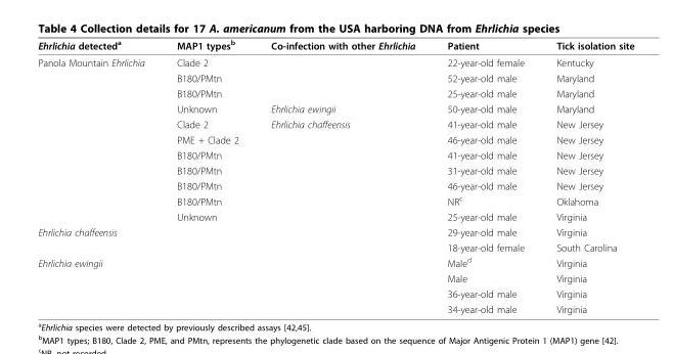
<table><thead><tr><td>Ehrlichia detected<sup>a</sup></td><td>MAP1 types<sup>b</sup></td><td>Co-infection with other Ehrlichia</td><td>Patient</td><td>Tick isolation site</td></tr></thead><tbody><tr><td rowspan="11">Panola Mountain Ehrlichia</td><td>Clade 2</td><td></td><td>22-year-old female</td><td>Kentucky</td></tr><tr><td>B180/PMtn</td><td></td><td>52-year-old male</td><td>Maryland</td></tr><tr><td>B180/PMtn</td><td></td><td>25-year-old male</td><td>Maryland</td></tr><tr><td>Unknown</td><td>Ehrlichia ewingii</td><td>50-year-old male</td><td>Maryland</td></tr><tr><td>Clade 2</td><td>Ehrlichia chaffeensis</td><td>41-year-old male</td><td>New Jersey</td></tr><tr><td>PME + Clade 2</td><td></td><td>46-year-old male</td><td>New Jersey</td></tr><tr><td>B180/PMtn</td><td></td><td>41-year-old male</td><td>New Jersey</td></tr><tr><td>B180/PMtn</td><td></td><td>31-year-old male</td><td>New Jersey</td></tr><tr><td>B180/PMtn</td><td></td><td>46-year-old male</td><td>New Jersey</td></tr><tr><td>B180/PMtn</td><td></td><td>NR<sup>c</sup></td><td>Oklahoma</td></tr><tr><td>Unknown</td><td></td><td>25-year-old male</td><td>Virginia</td></tr><tr><td rowspan="2">Ehrlichia chaffeensis</td><td></td><td></td><td>29-year-old male</td><td>Virginia</td></tr><tr><td></td><td></td><td>18-year-old female</td><td>South Carolina</td></tr><tr><td rowspan="4">Ehrlichia ewingii</td><td></td><td></td><td>Male<sup>d</sup></td><td>Virginia</td></tr><tr><td></td><td></td><td>Male</td><td>Virginia</td></tr><tr><td></td><td></td><td>36-year-old male</td><td>Virginia</td></tr><tr><td></td><td></td><td>34-year-old male</td><td>Virginia</td></tr></tbody></table>